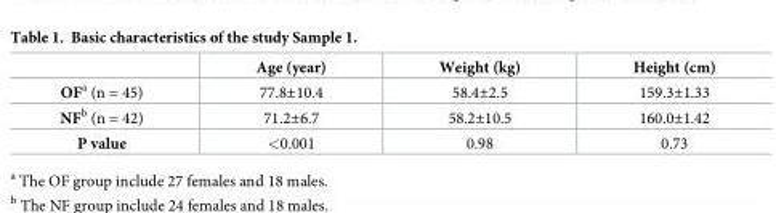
<table><thead><tr><td></td><td>Age (year)</td><td>Weight (kg)</td><td>Height (cm)</td></tr></thead><tbody><tr><td>OF<sup>a</sup> (n = 45)</td><td>77.8±10.4</td><td>58.4±2.5</td><td>159.3±1.33</td></tr><tr><td>NF<sup>b</sup> (n = 42)</td><td>71.2±6.7</td><td>58.2±10.5</td><td>160.0±1.42</td></tr><tr><td>P value</td><td>&lt;0.001</td><td>0.98</td><td>0.73</td></tr></tbody></table>